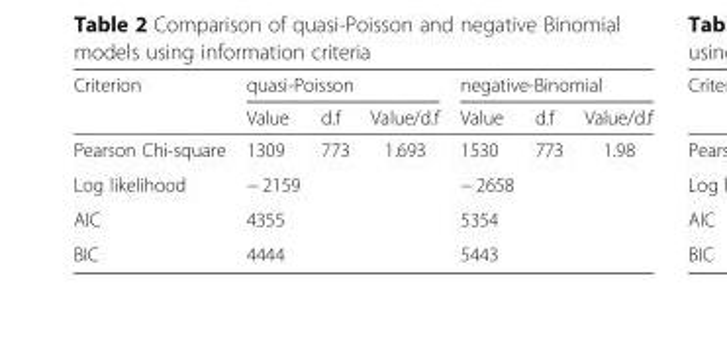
<table><thead><tr><td rowspan="2">Criterion</td><td colspan="3">quasi-Poisson</td><td colspan="3">negative-Binomial</td></tr><tr><td>Value</td><td>d.f</td><td>Value/d.f</td><td>Value</td><td>d.f</td><td>Value/d.f</td></tr></thead><tbody><tr><td>Pearson Chi-square</td><td>1309</td><td>773</td><td>1.693</td><td>1530</td><td>773</td><td>1.98</td></tr><tr><td>Log likelihood</td><td>− 2159</td><td></td><td></td><td>− 2658</td><td></td><td></td></tr><tr><td>AIC</td><td>4355</td><td></td><td></td><td>5354</td><td></td><td></td></tr><tr><td>BIC</td><td>4444</td><td></td><td></td><td>5443</td><td></td><td></td></tr></tbody></table>